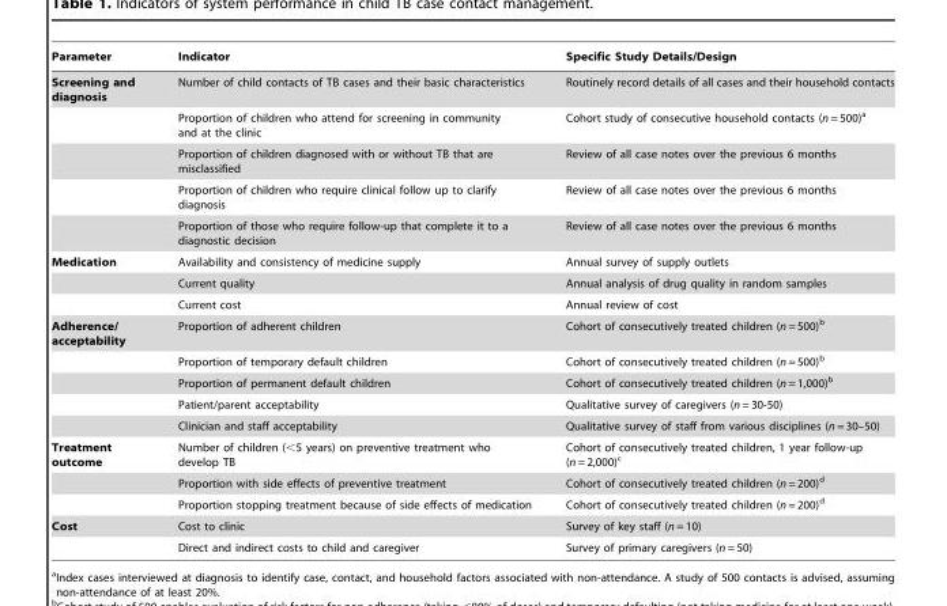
<table><thead><tr><td>Parameter</td><td>Indicator</td><td>Specific Study Details/Design</td></tr></thead><tbody><tr><td rowspan="5">Screening and diagnosis</td><td>Number of child contacts of TB cases and their basic characteristics</td><td>Routinely record details of all cases and their household contacts</td></tr><tr><td>Proportion of children who attend for screening in community and at the clinic</td><td>Cohort study of consecutive household contacts (n = 500)<sup>a</sup></td></tr><tr><td>Proportion of children diagnosed with or without TB that are misclassified</td><td>Review of all case notes over the previous 6 months</td></tr><tr><td>Proportion of children who require clinical follow up to clarify diagnosis</td><td>Review of all case notes over the previous 6 months</td></tr><tr><td>Proportion of those who require follow-up that complete it to a diagnostic decision</td><td>Review of all case notes over the previous 6 months</td></tr><tr><td rowspan="3">Medication</td><td>Availability and consistency of medicine supply</td><td>Annual survey of supply outlets</td></tr><tr><td>Current quality</td><td>Annual analysis of drug quality in random samples</td></tr><tr><td>Current cost</td><td>Annual review of cost</td></tr><tr><td rowspan="5">Adherence/ acceptability</td><td>Proportion of adherent children</td><td>Cohort of consecutively treated children (n = 500)<sup>b</sup></td></tr><tr><td>Proportion of temporary default children</td><td>Cohort of consecutively treated children (n = 500)<sup>b</sup></td></tr><tr><td>Proportion of permanent default children</td><td>Cohort of consecutively treated children (n = 1,000)<sup>b</sup></td></tr><tr><td>Patient/parent acceptability</td><td>Qualitative survey of caregivers (n = 30-50)</td></tr><tr><td>Clinician and staff acceptability</td><td>Qualitative survey of staff from various disciplines (n = 30–50)</td></tr><tr><td rowspan="3">Treatment outcome</td><td>Number of children (&lt;5 years) on preventive treatment who develop TB</td><td>Cohort of consecutively treated children, 1 year follow-up (n = 2,000)<sup>c</sup></td></tr><tr><td>Proportion with side effects of preventive treatment</td><td>Cohort of consecutively treated children (n = 200)<sup>d</sup></td></tr><tr><td>Proportion stopping treatment because of side effects of medication</td><td>Cohort of consecutively treated children (n = 200)<sup>d</sup></td></tr><tr><td rowspan="2">Cost</td><td>Cost to clinic</td><td>Survey of key staff (n = 10)</td></tr><tr><td>Direct and indirect costs to child and caregiver</td><td>Survey of primary caregivers (n = 50)</td></tr></tbody></table>